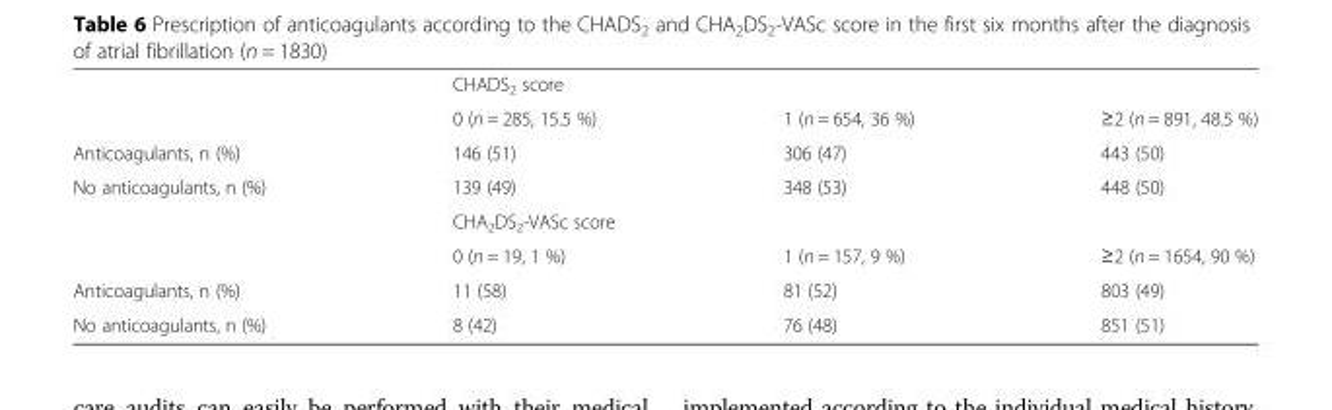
<table><thead><tr><td rowspan="2"></td><td colspan="3">CHADS<sub>2</sub> score</td></tr><tr><td>0 (n = 285, 15.5 %)</td><td>1 (n = 654, 36 %)</td><td>≥2 (n = 891, 48.5 %)</td></tr></thead><tbody><tr><td>Anticoagulants, n (%)</td><td>146 (51)</td><td>306 (47)</td><td>443 (50)</td></tr><tr><td rowspan="3">No anticoagulants, n (%)</td><td>139 (49)</td><td>348 (53)</td><td>448 (50)</td></tr><tr><td colspan="3">CHA<sub>2</sub>DS<sub>2</sub>-VASc score</td></tr><tr><td>0 (n = 19, 1 %)</td><td>1 (n = 157, 9 %)</td><td>≥2 (n = 1654, 90 %)</td></tr><tr><td>Anticoagulants, n (%)</td><td>11 (58)</td><td>81 (52)</td><td>803 (49)</td></tr><tr><td>No anticoagulants, n (%)</td><td>8 (42)</td><td>76 (48)</td><td>851 (51)</td></tr></tbody></table>